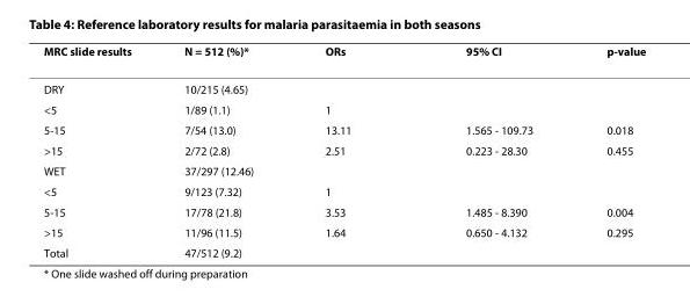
<table><thead><tr><td>MRC slide results</td><td>N = 512 (%)*</td><td>ORs</td><td>95% CI</td><td>p-value</td></tr></thead><tbody><tr><td>DRY</td><td>10/215 (4.65)</td><td></td><td></td><td></td></tr><tr><td>&lt;5</td><td>1/89 (1.1)</td><td>1</td><td></td><td></td></tr><tr><td>5-15</td><td>7/54 (13.0)</td><td>13.11</td><td>1.565 - 109.73</td><td>0.018</td></tr><tr><td>&gt;15</td><td>2/72 (2.8)</td><td>2.51</td><td>0.223 - 28.30</td><td>0.455</td></tr><tr><td>WET</td><td>37/297 (12.46)</td><td></td><td></td><td></td></tr><tr><td>&lt;5</td><td>9/123 (7.32)</td><td>1</td><td></td><td></td></tr><tr><td>5-15</td><td>17/78 (21.8)</td><td>3.53</td><td>1.485 - 8.390</td><td>0.004</td></tr><tr><td>&gt;15</td><td>11/96 (11.5)</td><td>1.64</td><td>0.650 - 4.132</td><td>0.295</td></tr><tr><td>Total</td><td>47/512 (9.2)</td><td></td><td></td><td></td></tr></tbody></table>